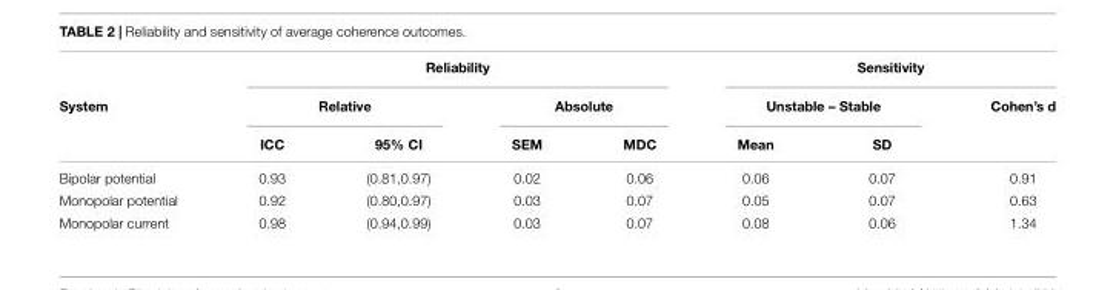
<table><thead><tr><td rowspan="3">System</td><td colspan="4">Reliability</td><td colspan="3">Sensitivity</td></tr><tr><td colspan="2">Relative</td><td colspan="2">Absolute</td><td colspan="2">Unstable – Stable</td><td rowspan="2">Cohen’s d</td></tr><tr><td>ICC</td><td>95% CI</td><td>SEM</td><td>MDC</td><td>Mean</td><td>SD</td></tr></thead><tbody><tr><td>Bipolar potential</td><td>0.93</td><td>(0.81,0.97)</td><td>0.02</td><td>0.06</td><td>0.06</td><td>0.07</td><td>0.91</td></tr><tr><td>Monopolar potential</td><td>0.92</td><td>(0.80,0.97)</td><td>0.03</td><td>0.07</td><td>0.05</td><td>0.07</td><td>0.63</td></tr><tr><td>Monopolar current</td><td>0.98</td><td>(0.94,0.99)</td><td>0.03</td><td>0.07</td><td>0.08</td><td>0.06</td><td>1.34</td></tr></tbody></table>